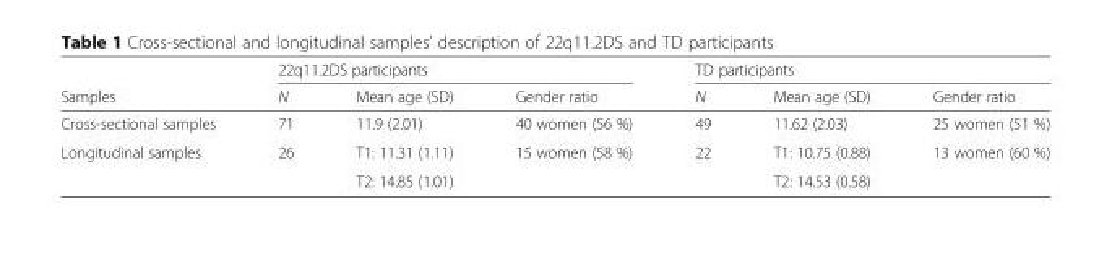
<table><thead><tr><td rowspan="2">Samples</td><td colspan="3">22q11.2DS participants</td><td colspan="3">TD participants</td></tr><tr><td>N</td><td>Mean age (SD)</td><td>Gender ratio</td><td>N</td><td>Mean age (SD)</td><td>Gender ratio</td></tr></thead><tbody><tr><td>Cross-sectional samples</td><td>71</td><td>11.9 (2.01)</td><td>40 women (56 %)</td><td>49</td><td>11.62 (2.03)</td><td>25 women (51 %)</td></tr><tr><td rowspan="2">Longitudinal samples</td><td>26</td><td>T1: 11.31 (1.11)</td><td>15 women (58 %)</td><td>22</td><td>T1: 10.75 (0.88)</td><td>13 women (60 %)</td></tr><tr><td></td><td>T2: 14.85 (1.01)</td><td></td><td></td><td>T2: 14.53 (0.58)</td><td></td></tr></tbody></table>